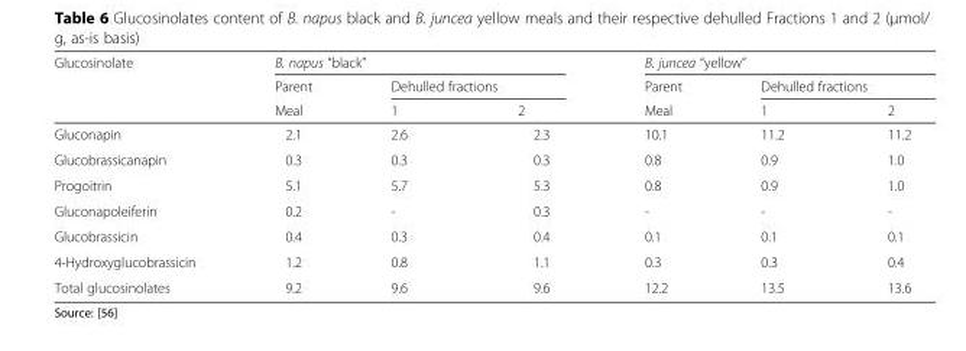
<table><thead><tr><td rowspan="3">Glucosinolate</td><td colspan="3">B. napus “black”</td><td colspan="3">B. juncea “yellow”</td></tr><tr><td rowspan="2">Parent Meal</td><td colspan="2">Dehulled fractions</td><td rowspan="2">Parent Meal</td><td colspan="2">Dehulled fractions</td></tr><tr><td>1</td><td>2</td><td>1</td><td>2</td></tr></thead><tbody><tr><td>Gluconapin</td><td>2.1</td><td>2.6</td><td>2.3</td><td>10.1</td><td>11.2</td><td>11.2</td></tr><tr><td>Glucobrassicanapin</td><td>0.3</td><td>0.3</td><td>0.3</td><td>0.8</td><td>0.9</td><td>1.0</td></tr><tr><td>Progoitrin</td><td>5.1</td><td>5.7</td><td>5.3</td><td>0.8</td><td>0.9</td><td>1.0</td></tr><tr><td>Gluconapoleiferin</td><td>0.2</td><td>-</td><td>0.3</td><td>-</td><td>-</td><td>-</td></tr><tr><td>Glucobrassicin</td><td>0.4</td><td>0.3</td><td>0.4</td><td>0.1</td><td>0.1</td><td>0.1</td></tr><tr><td>4-Hydroxyglucobrassicin</td><td>1.2</td><td>0.8</td><td>1.1</td><td>0.3</td><td>0.3</td><td>0.4</td></tr><tr><td>Total glucosinolates</td><td>9.2</td><td>9.6</td><td>9.6</td><td>12.2</td><td>13.5</td><td>13.6</td></tr></tbody></table>